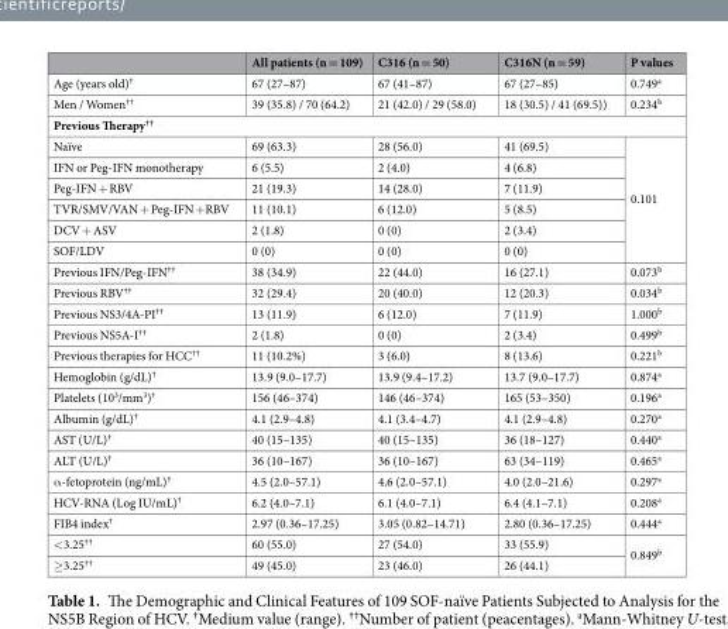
<table><thead><tr><td></td><td>All patients (n = 109)</td><td>C316 (n = 50)</td><td>C316N (n = 59)</td><td>P values</td></tr></thead><tbody><tr><td>Age (years old)<sup>†</sup></td><td>67 (27–87)</td><td>67 (41–87)</td><td>67 (27–85)</td><td>0.749<sup>a</sup></td></tr><tr><td>Men / Women<sup>††</sup></td><td>39 (35.8) / 70 (64.2)</td><td>21 (42.0) / 29 (58.0)</td><td>18 (30.5) / 41 (69.5))</td><td>0.234<sup>b</sup></td></tr><tr><td colspan="5">Previous Therapy<sup>††</sup></td></tr><tr><td>Naïve</td><td>69 (63.3)</td><td>28 (56.0)</td><td>41 (69.5)</td><td rowspan="6">0.101</td></tr><tr><td>IFN or Peg-IFN monotherapy</td><td>6 (5.5)</td><td>2 (4.0)</td><td>4 (6.8)</td></tr><tr><td>Peg-IFN + RBV</td><td>21 (19.3)</td><td>14 (28.0)</td><td>7 (11.9)</td></tr><tr><td>TVR/SMV/VAN + Peg-IFN +RBV</td><td>11 (10.1)</td><td>6 (12.0)</td><td>5 (8.5)</td></tr><tr><td>DCV + ASV</td><td>2 (1.8)</td><td>0 (0)</td><td>2 (3.4)</td></tr><tr><td>SOF/LDV</td><td>0 (0)</td><td>0 (0)</td><td>0 (0)</td></tr><tr><td>Previous IFN/Peg-IFN<sup>††</sup></td><td>38 (34.9)</td><td>22 (44.0)</td><td>16 (27.1)</td><td>0.073<sup>b</sup></td></tr><tr><td>Previous RBV<sup>††</sup></td><td>32 (29.4)</td><td>20 (40.0)</td><td>12 (20.3)</td><td>0.034<sup>b</sup></td></tr><tr><td>Previous NS3/4A-PI<sup>††</sup></td><td>13 (11.9)</td><td>6 (12.0)</td><td>7 (11.9)</td><td>1.000<sup>b</sup></td></tr><tr><td>Previous NS5A-I<sup>††</sup></td><td>2 (1.8)</td><td>0 (0)</td><td>2 (3.4)</td><td>0.499<sup>b</sup></td></tr><tr><td>Previous therapies for HCC<sup>††</sup></td><td>11 (10.2%)</td><td>3 (6.0)</td><td>8 (13.6)</td><td>0.221<sup>b</sup></td></tr><tr><td>Hemoglobin (g/dL)<sup>†</sup></td><td>13.9 (9.0–17.7)</td><td>13.9 (9.4–17.2)</td><td>13.7 (9.0–17.7)</td><td>0.874<sup>a</sup></td></tr><tr><td>Platelets (10<sup>3</sup>/mm<sup>3</sup>)<sup>†</sup></td><td>156 (46–374)</td><td>146 (46–374)</td><td>165 (53–350)</td><td>0.196<sup>a</sup></td></tr><tr><td>Albumin (g/dL)<sup>†</sup></td><td>4.1 (2.9–4.8)</td><td>4.1 (3.4–4.7)</td><td>4.1 (2.9–4.8)</td><td>0.270<sup>a</sup></td></tr><tr><td>AST (U/L)<sup>†</sup></td><td>40 (15–135)</td><td>40 (15–135)</td><td>36 (18–127)</td><td>0.440<sup>a</sup></td></tr><tr><td>ALT (U/L)<sup>†</sup></td><td>36 (10–167)</td><td>36 (10–167)</td><td>63 (34–119)</td><td>0.465<sup>a</sup></td></tr><tr><td>α-fetoprotein (ng/mL)<sup>†</sup></td><td>4.5 (2.0–57.1)</td><td>4.6 (2.0–57.1)</td><td>4.0 (2.0–21.6)</td><td>0.297<sup>a</sup></td></tr><tr><td>HCV-RNA (Log IU/mL)<sup>†</sup></td><td>6.2 (4.0–7.1)</td><td>6.1 (4.0–7.1)</td><td>6.4 (4.1–7.1)</td><td>0.208<sup>a</sup></td></tr><tr><td>FIB4 index<sup>†</sup></td><td>2.97 (0.36–17.25)</td><td>3.05 (0.82–14.71)</td><td>2.80 (0.36–17.25)</td><td>0.444<sup>a</sup></td></tr><tr><td>&lt;3.25<sup>††</sup></td><td>60 (55.0)</td><td>27 (54.0)</td><td>33 (55.9)</td><td rowspan="2">0.849<sup>b</sup></td></tr><tr><td>≥3.25<sup>††</sup></td><td>49 (45.0)</td><td>23 (46.0)</td><td>26 (44.1)</td></tr></tbody></table>